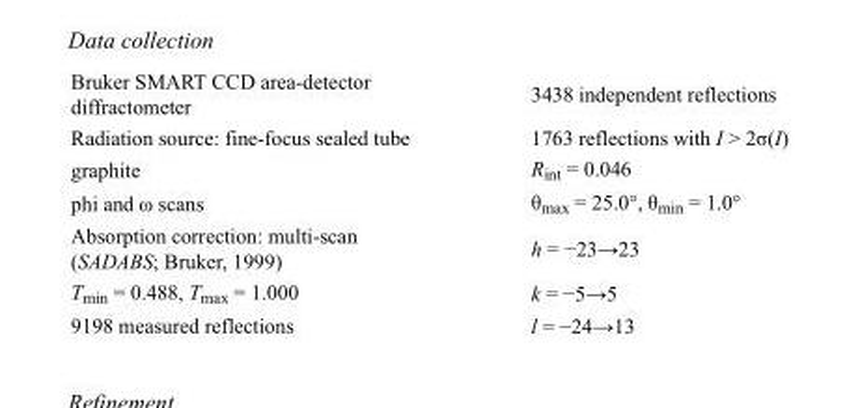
<table><tbody><tr><td>Bruker SMART CCD area-detector diffractometer</td><td>3438 independent reflections</td></tr><tr><td>Radiation source: fine-focus sealed tube</td><td>1763 reflections with I &gt; 2σ(I)</td></tr><tr><td>graphite</td><td>R<sub>int</sub> = 0.046</td></tr><tr><td>phi and ω scans</td><td>θ<sub>max</sub> = 25.0°, θ<sub>min</sub> = 1.0°</td></tr><tr><td>Absorption correction: multi-scan (SADABS; Bruker, 1999)</td><td>h = −23→23</td></tr><tr><td>T<sub>min</sub> = 0.488, T<sub>max</sub> = 1.000</td><td>k = −5→5</td></tr><tr><td>9198 measured reflections</td><td>l = −24→13</td></tr></tbody></table>